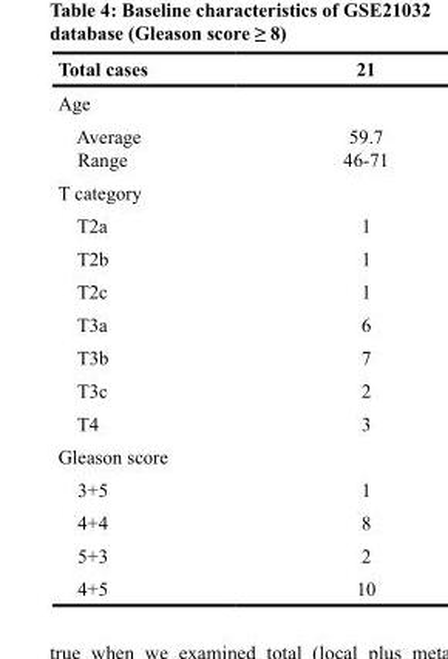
<table><thead><tr><td>Total cases</td><td>21</td></tr></thead><tbody><tr><td colspan="2">Age</td></tr><tr><td>Average</td><td>59.7</td></tr><tr><td>Range</td><td>46-71</td></tr><tr><td colspan="2">T category</td></tr><tr><td>T2a</td><td>1</td></tr><tr><td>T2b</td><td>1</td></tr><tr><td>T2c</td><td>1</td></tr><tr><td>T3a</td><td>6</td></tr><tr><td>T3b</td><td>7</td></tr><tr><td>T3c</td><td>2</td></tr><tr><td>T4</td><td>3</td></tr><tr><td colspan="2">Gleason score</td></tr><tr><td>3+5</td><td>1</td></tr><tr><td>4+4</td><td>8</td></tr><tr><td>5+3</td><td>2</td></tr><tr><td>4+5</td><td>10</td></tr></tbody></table>